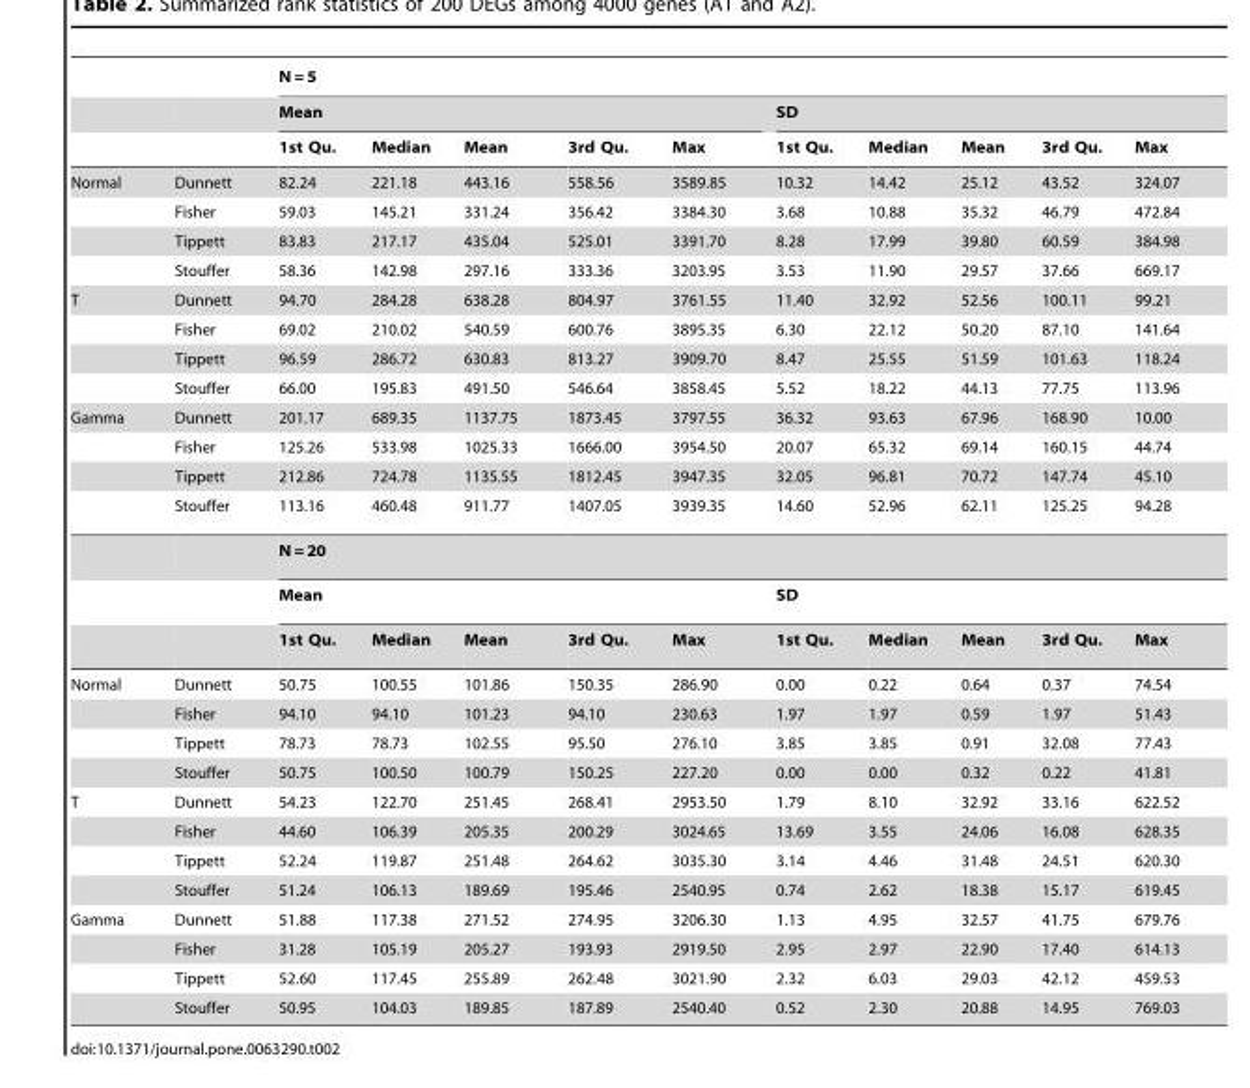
<table><thead><tr><td rowspan="3"></td><td rowspan="3"></td><td colspan="10">N = 5</td></tr><tr><td colspan="5">Mean</td><td colspan="5">SD</td></tr><tr><td>1st Qu.</td><td>Median</td><td>Mean</td><td>3rd Qu.</td><td>Max</td><td>1st Qu.</td><td>Median</td><td>Mean</td><td>3rd Qu.</td><td>Max</td></tr></thead><tbody><tr><td rowspan="4">Normal</td><td>Dunnett</td><td>82.24</td><td>221.18</td><td>443.16</td><td>558.56</td><td>3589.85</td><td>10.32</td><td>14.42</td><td>25.12</td><td>43.52</td><td>324.07</td></tr><tr><td>Fisher</td><td>59.03</td><td>145.21</td><td>331.24</td><td>356.42</td><td>3384.30</td><td>3.68</td><td>10.88</td><td>35.32</td><td>46.79</td><td>472.84</td></tr><tr><td>Tippett</td><td>83.83</td><td>217.17</td><td>435.04</td><td>525.01</td><td>3391.70</td><td>8.28</td><td>17.99</td><td>39.80</td><td>60.59</td><td>384.98</td></tr><tr><td>Stouffer</td><td>58.36</td><td>142.98</td><td>297.16</td><td>333.36</td><td>3203.95</td><td>3.53</td><td>11.90</td><td>29.57</td><td>37.66</td><td>669.17</td></tr><tr><td rowspan="4">T</td><td>Dunnett</td><td>94.70</td><td>284.28</td><td>638.28</td><td>804.97</td><td>3761.55</td><td>11.40</td><td>32.92</td><td>52.56</td><td>100.11</td><td>99.21</td></tr><tr><td>Fisher</td><td>69.02</td><td>210.02</td><td>540.59</td><td>600.76</td><td>3895.35</td><td>6.30</td><td>22.12</td><td>50.20</td><td>87.10</td><td>141.64</td></tr><tr><td>Tippett</td><td>96.59</td><td>286.72</td><td>630.83</td><td>813.27</td><td>3909.70</td><td>8.47</td><td>25.55</td><td>51.59</td><td>101.63</td><td>118.24</td></tr><tr><td>Stouffer</td><td>66.00</td><td>195.83</td><td>491.50</td><td>546.64</td><td>3858.45</td><td>5.52</td><td>18.22</td><td>44.13</td><td>77.75</td><td>113.96</td></tr><tr><td rowspan="7">Gamma</td><td>Dunnett</td><td>201.17</td><td>689.35</td><td>1137.75</td><td>1873.45</td><td>3797.55</td><td>36.32</td><td>93.63</td><td>67.96</td><td>168.90</td><td>10.00</td></tr><tr><td>Fisher</td><td>125.26</td><td>533.98</td><td>1025.33</td><td>1666.00</td><td>3954.50</td><td>20.07</td><td>65.32</td><td>69.14</td><td>160.15</td><td>44.74</td></tr><tr><td>Tippett</td><td>212.86</td><td>724.78</td><td>1135.55</td><td>1812.45</td><td>3947.35</td><td>32.05</td><td>96.81</td><td>70.72</td><td>147.74</td><td>45.10</td></tr><tr><td>Stouffer</td><td>113.16</td><td>460.48</td><td>911.77</td><td>1407.05</td><td>3939.35</td><td>14.60</td><td>52.96</td><td>62.11</td><td>125.25</td><td>94.28</td></tr><tr><td></td><td colspan="10">N = 20</td></tr><tr><td></td><td colspan="5">Mean</td><td colspan="5">SD</td></tr><tr><td></td><td>1st Qu.</td><td>Median</td><td>Mean</td><td>3rd Qu.</td><td>Max</td><td>1st Qu.</td><td>Median</td><td>Mean</td><td>3rd Qu.</td><td>Max</td></tr><tr><td rowspan="4">Normal</td><td>Dunnett</td><td>50.75</td><td>100.55</td><td>101.86</td><td>150.35</td><td>286.90</td><td>0.00</td><td>0.22</td><td>0.64</td><td>0.37</td><td>74.54</td></tr><tr><td>Fisher</td><td>94.10</td><td>94.10</td><td>101.23</td><td>94.10</td><td>230.63</td><td>1.97</td><td>1.97</td><td>0.59</td><td>1.97</td><td>51.43</td></tr><tr><td>Tippett</td><td>78.73</td><td>78.73</td><td>102.55</td><td>95.50</td><td>276.10</td><td>3.85</td><td>3.85</td><td>0.91</td><td>32.08</td><td>77.43</td></tr><tr><td>Stouffer</td><td>50.75</td><td>100.50</td><td>100.79</td><td>150.25</td><td>227.20</td><td>0.00</td><td>0.00</td><td>0.32</td><td>0.22</td><td>41.81</td></tr><tr><td rowspan="4">T</td><td>Dunnett</td><td>54.23</td><td>122.70</td><td>251.45</td><td>268.41</td><td>2953.50</td><td>1.79</td><td>8.10</td><td>32.92</td><td>33.16</td><td>622.52</td></tr><tr><td>Fisher</td><td>44.60</td><td>106.39</td><td>205.35</td><td>200.29</td><td>3024.65</td><td>13.69</td><td>3.55</td><td>24.06</td><td>16.08</td><td>628.35</td></tr><tr><td>Tippett</td><td>52.24</td><td>119.87</td><td>251.48</td><td>264.62</td><td>3035.30</td><td>3.14</td><td>4.46</td><td>31.48</td><td>24.51</td><td>620.30</td></tr><tr><td>Stouffer</td><td>51.24</td><td>106.13</td><td>189.69</td><td>195.46</td><td>2540.95</td><td>0.74</td><td>2.62</td><td>18.38</td><td>15.17</td><td>619.45</td></tr><tr><td rowspan="4">Gamma</td><td>Dunnett</td><td>51.88</td><td>117.38</td><td>271.52</td><td>274.95</td><td>3206.30</td><td>1.13</td><td>4.95</td><td>32.57</td><td>41.75</td><td>679.76</td></tr><tr><td>Fisher</td><td>31.28</td><td>105.19</td><td>205.27</td><td>193.93</td><td>2919.50</td><td>2.95</td><td>2.97</td><td>22.90</td><td>17.40</td><td>614.13</td></tr><tr><td>Tippett</td><td>52.60</td><td>117.45</td><td>255.89</td><td>262.48</td><td>3021.90</td><td>2.32</td><td>6.03</td><td>29.03</td><td>42.12</td><td>459.53</td></tr><tr><td>Stouffer</td><td>50.95</td><td>104.03</td><td>189.85</td><td>187.89</td><td>2540.40</td><td>0.52</td><td>2.30</td><td>20.88</td><td>14.95</td><td>769.03</td></tr></tbody></table>